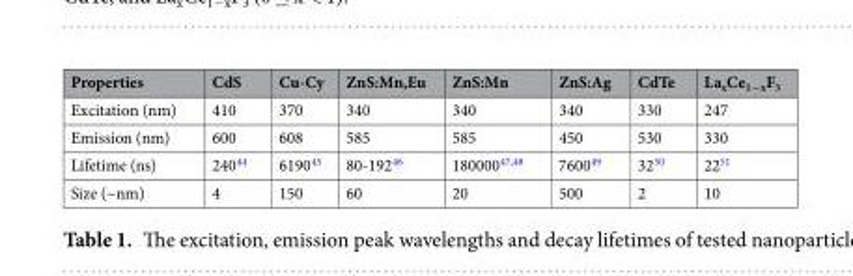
<table><thead><tr><td>Properties</td><td>CdS</td><td>Cu-Cy</td><td>ZnS:Mn,Eu</td><td>ZnS:Mn</td><td>ZnS:Ag</td><td>CdTe</td><td>La<sub>x</sub>Ce<sub>1−x</sub>F<sub>3</sub></td></tr></thead><tbody><tr><td>Excitation (nm)</td><td>410</td><td>370</td><td>340</td><td>340</td><td>340</td><td>330</td><td>247</td></tr><tr><td>Emission (nm)</td><td>600</td><td>608</td><td>585</td><td>585</td><td>450</td><td>530</td><td>330</td></tr><tr><td>Lifetime (ns)</td><td>240<sup>44</sup></td><td>6190<sup>45</sup></td><td>80-192<sup>46</sup></td><td>180000<sup>47,48</sup></td><td>7600<sup>49</sup></td><td>32<sup>50</sup></td><td>22<sup>51</sup></td></tr><tr><td>Size (~nm)</td><td>4</td><td>150</td><td>60</td><td>20</td><td>500</td><td>2</td><td>10</td></tr></tbody></table>